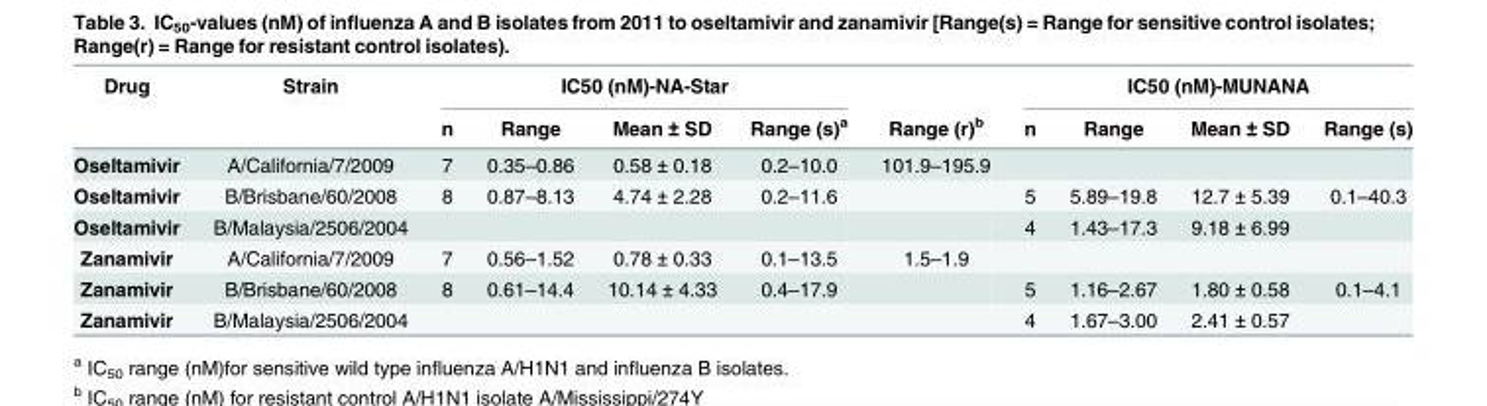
<table><thead><tr><td rowspan="2">Drug</td><td rowspan="2">Strain</td><td colspan="4">IC50 (nM)-NA-Star</td><td rowspan="2">Range (r)<sup>b</sup></td><td colspan="4">IC50 (nM)-MUNANA</td></tr><tr><td>n</td><td>Range</td><td>Mean ± SD</td><td>Range (s)<sup>a</sup></td><td>n</td><td>Range</td><td>Mean ± SD</td><td>Range (s)</td></tr></thead><tbody><tr><td>Oseltamivir</td><td>A/California/7/2009</td><td>7</td><td>0.35–0.86</td><td>0.58 ± 0.18</td><td>0.2–10.0</td><td>101.9–195.9</td><td></td><td></td><td></td><td></td></tr><tr><td>Oseltamivir</td><td>B/Brisbane/60/2008</td><td>8</td><td>0.87–8.13</td><td>4.74 ± 2.28</td><td>0.2–11.6</td><td></td><td>5</td><td>5.89–19.8</td><td>12.7 ± 5.39</td><td>0.1–40.3</td></tr><tr><td>Oseltamivir</td><td>B/Malaysia/2506/2004</td><td></td><td></td><td></td><td></td><td></td><td>4</td><td>1.43–17.3</td><td>9.18 ± 6.99</td><td></td></tr><tr><td>Zanamivir</td><td>A/California/7/2009</td><td>7</td><td>0.56–1.52</td><td>0.78 ± 0.33</td><td>0.1–13.5</td><td>1.5–1.9</td><td></td><td></td><td></td><td></td></tr><tr><td>Zanamivir</td><td>B/Brisbane/60/2008</td><td>8</td><td>0.61–14.4</td><td>10.14 ± 4.33</td><td>0.4–17.9</td><td></td><td>5</td><td>1.16–2.67</td><td>1.80 ± 0.58</td><td>0.1–4.1</td></tr><tr><td>Zanamivir</td><td>B/Malaysia/2506/2004</td><td></td><td></td><td></td><td></td><td></td><td>4</td><td>1.67–3.00</td><td>2.41 ± 0.57</td><td></td></tr></tbody></table>